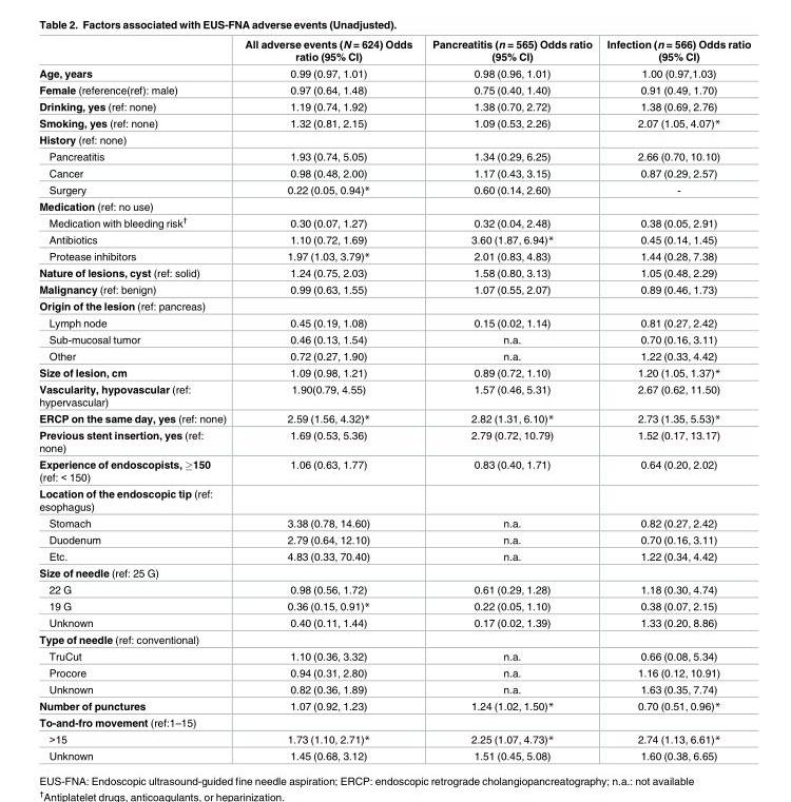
<table><thead><tr><td></td><td>All adverse events (N = 624) Odds ratio (95% CI)</td><td>Pancreatitis (n = 565) Odds ratio (95% CI)</td><td>Infection (n = 566) Odds ratio (95% CI)</td></tr></thead><tbody><tr><td>Age, years</td><td>0.99 (0.97, 1.01)</td><td>0.98 (0.96, 1.01)</td><td>1.00 (0.97,1.03)</td></tr><tr><td>Female (reference(ref): male)</td><td>0.97 (0.64, 1.48)</td><td>0.75 (0.40, 1.40)</td><td>0.91 (0.49, 1.70)</td></tr><tr><td>Drinking, yes (ref: none)</td><td>1.19 (0.74, 1.92)</td><td>1.38 (0.70, 2.72)</td><td>1.38 (0.69, 2.76)</td></tr><tr><td>Smoking, yes (ref: none)</td><td>1.32 (0.81, 2.15)</td><td>1.09 (0.53, 2.26)</td><td>2.07 (1.05, 4.07)*</td></tr><tr><td colspan="4">History (ref: none)</td></tr><tr><td>Pancreatitis</td><td>1.93 (0.74, 5.05)</td><td>1.34 (0.29, 6.25)</td><td>2.66 (0.70, 10.10)</td></tr><tr><td>Cancer</td><td>0.98 (0.48, 2.00)</td><td>1.17 (0.43, 3.15)</td><td>0.87 (0.29, 2.57)</td></tr><tr><td>Surgery</td><td>0.22 (0.05, 0.94)*</td><td>0.60 (0.14, 2.60)</td><td>-</td></tr><tr><td colspan="4">Medication (ref: no use)</td></tr><tr><td>Medication with bleeding risk<sup>†</sup></td><td>0.30 (0.07, 1.27)</td><td>0.32 (0.04, 2.48)</td><td>0.38 (0.05, 2.91)</td></tr><tr><td>Antibiotics</td><td>1.10 (0.72, 1.69)</td><td>3.60 (1.87, 6.94)*</td><td>0.45 (0.14, 1.45)</td></tr><tr><td>Protease inhibitors</td><td>1.97 (1.03, 3.79)*</td><td>2.01 (0.83, 4.83)</td><td>1.44 (0.28, 7.38)</td></tr><tr><td>Nature of lesions, cyst (ref: solid)</td><td>1.24 (0.75, 2.03)</td><td>1.58 (0.80, 3.13)</td><td>1.05 (0.48, 2.29)</td></tr><tr><td>Malignancy (ref: benign)</td><td>0.99 (0.63, 1.55)</td><td>1.07 (0.55, 2.07)</td><td>0.89 (0.46, 1.73)</td></tr><tr><td colspan="4">Origin of the lesion (ref: pancreas)</td></tr><tr><td>Lymph node</td><td>0.45 (0.19, 1.08)</td><td>0.15 (0.02, 1.14)</td><td>0.81 (0.27, 2.42)</td></tr><tr><td>Sub-mucosal tumor</td><td>0.46 (0.13, 1.54)</td><td>n.a.</td><td>0.70 (0.16, 3.11)</td></tr><tr><td>Other</td><td>0.72 (0.27, 1.90)</td><td>n.a.</td><td>1.22 (0.33, 4.42)</td></tr><tr><td>Size of lesion, cm</td><td>1.09 (0.98, 1.21)</td><td>0.89 (0.72, 1.10)</td><td>1.20 (1.05, 1.37)*</td></tr><tr><td>Vascularity, hypovascular (ref: hypervascular)</td><td>1.90(0.79, 4.55)</td><td>1.57 (0.46, 5.31)</td><td>2.67 (0.62, 11.50)</td></tr><tr><td>ERCP on the same day, yes (ref: none)</td><td>2.59 (1.56, 4.32)*</td><td>2.82 (1.31, 6.10)*</td><td>2.73 (1.35, 5.53)*</td></tr><tr><td>Previous stent insertion, yes (ref: none)</td><td>1.69 (0.53, 5.36)</td><td>2.79 (0.72, 10.79)</td><td>1.52 (0.17, 13.17)</td></tr><tr><td>Experience of endoscopists, ≥150 (ref: &lt; 150)</td><td>1.06 (0.63, 1.77)</td><td>0.83 (0.40, 1.71)</td><td>0.64 (0.20, 2.02)</td></tr><tr><td colspan="4">Location of the endoscopic tip (ref: esophagus)</td></tr><tr><td>Stomach</td><td>3.38 (0.78, 14.60)</td><td>n.a.</td><td>0.82 (0.27, 2.42)</td></tr><tr><td>Duodenum</td><td>2.79 (0.64, 12.10)</td><td>n.a.</td><td>0.70 (0.16, 3.11)</td></tr><tr><td>Etc.</td><td>4.83 (0.33, 70.40)</td><td>n.a.</td><td>1.22 (0.34, 4.42)</td></tr><tr><td colspan="4">Size of needle (ref: 25 G)</td></tr><tr><td>22 G</td><td>0.98 (0.56, 1.72)</td><td>0.61 (0.29, 1.28)</td><td>1.18 (0.30, 4.74)</td></tr><tr><td>19 G</td><td>0.36 (0.15, 0.91)*</td><td>0.22 (0.05, 1.10)</td><td>0.38 (0.07, 2.15)</td></tr><tr><td>Unknown</td><td>0.40 (0.11, 1.44)</td><td>0.17 (0.02, 1.39)</td><td>1.33 (0.20, 8.86)</td></tr><tr><td colspan="4">Type of needle (ref: conventional)</td></tr><tr><td>TruCut</td><td>1.10 (0.36, 3.32)</td><td>n.a.</td><td>0.66 (0.08, 5.34)</td></tr><tr><td>Procore</td><td>0.94 (0.31, 2.80)</td><td>n.a.</td><td>1.16 (0.12, 10.91)</td></tr><tr><td>Unknown</td><td>0.82 (0.36, 1.89)</td><td>n.a.</td><td>1.63 (0.35, 7.74)</td></tr><tr><td>Number of punctures</td><td>1.07 (0.92, 1.23)</td><td>1.24 (1.02, 1.50)*</td><td>0.70 (0.51, 0.96)*</td></tr><tr><td colspan="4">To-and-fro movement (ref:1–15)</td></tr><tr><td>&gt;15</td><td>1.73 (1.10, 2.71)*</td><td>2.25 (1.07, 4.73)*</td><td>2.74 (1.13, 6.61)*</td></tr><tr><td>Unknown</td><td>1.45 (0.68, 3.12)</td><td>1.51 (0.45, 5.08)</td><td>1.60 (0.38, 6.65)</td></tr></tbody></table>